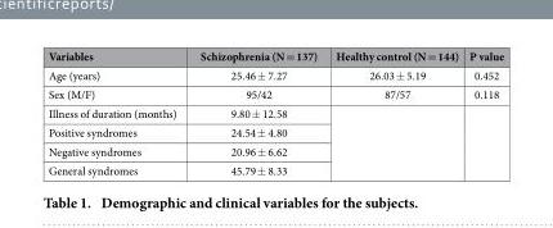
<table><thead><tr><td>Variables</td><td>Schizophrenia (N = 137)</td><td>Healthy control (N = 144)</td><td>P value</td></tr></thead><tbody><tr><td>Age (years)</td><td>25.46 ± 7.27</td><td>26.03 ± 5.19</td><td>0.452</td></tr><tr><td>Sex (M/F)</td><td>95/42</td><td>87/57</td><td>0.118</td></tr><tr><td>Illness of duration (months)</td><td>9.80 ± 12.58</td><td rowspan="4"></td><td rowspan="4"></td></tr><tr><td>Positive syndromes</td><td>24.54 ± 4.80</td></tr><tr><td>Negative syndromes</td><td>20.96 ± 6.62</td></tr><tr><td>General syndromes</td><td>45.79 ± 8.33</td></tr></tbody></table>